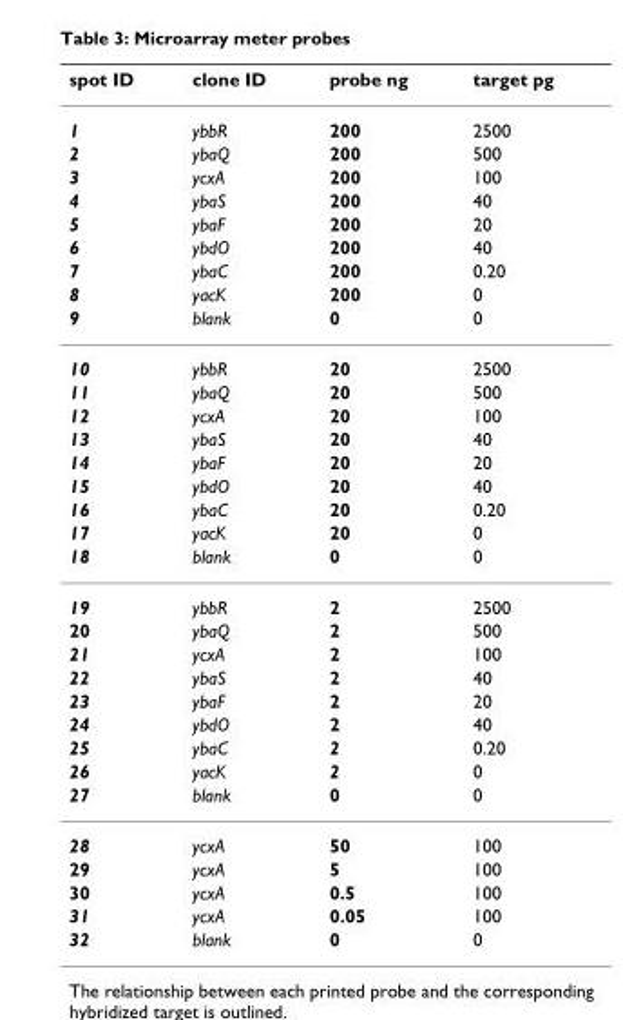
<table><thead><tr><td>spot ID</td><td>clone ID</td><td>probe ng</td><td>target pg</td></tr></thead><tbody><tr><td>1</td><td>ybbR</td><td>200</td><td>2500</td></tr><tr><td>2</td><td>ybaQ</td><td>200</td><td>500</td></tr><tr><td>3</td><td>ycxA</td><td>200</td><td>100</td></tr><tr><td>4</td><td>ybaS</td><td>200</td><td>40</td></tr><tr><td>5</td><td>ybaF</td><td>200</td><td>20</td></tr><tr><td>6</td><td>ybdO</td><td>200</td><td>40</td></tr><tr><td>7</td><td>ybaC</td><td>200</td><td>0.20</td></tr><tr><td>8</td><td>yacK</td><td>200</td><td>0</td></tr><tr><td>9</td><td>blank</td><td>0</td><td>0</td></tr><tr><td>10</td><td>ybbR</td><td>20</td><td>2500</td></tr><tr><td>11</td><td>ybaQ</td><td>20</td><td>500</td></tr><tr><td>12</td><td>ycxA</td><td>20</td><td>100</td></tr><tr><td>13</td><td>ybaS</td><td>20</td><td>40</td></tr><tr><td>14</td><td>ybaF</td><td>20</td><td>20</td></tr><tr><td>15</td><td>ybdO</td><td>20</td><td>40</td></tr><tr><td>16</td><td>ybaC</td><td>20</td><td>0.20</td></tr><tr><td>17</td><td>yacK</td><td>20</td><td>0</td></tr><tr><td>18</td><td>blank</td><td>0</td><td>0</td></tr><tr><td>19</td><td>ybbR</td><td>2</td><td>2500</td></tr><tr><td>20</td><td>ybaQ</td><td>2</td><td>500</td></tr><tr><td>21</td><td>ycxA</td><td>2</td><td>100</td></tr><tr><td>22</td><td>ybaS</td><td>2</td><td>40</td></tr><tr><td>23</td><td>ybaF</td><td>2</td><td>20</td></tr><tr><td>24</td><td>ybdO</td><td>2</td><td>40</td></tr><tr><td>25</td><td>ybaC</td><td>2</td><td>0.20</td></tr><tr><td>26</td><td>yacK</td><td>2</td><td>0</td></tr><tr><td>27</td><td>blank</td><td>0</td><td>0</td></tr><tr><td>28</td><td>ycxA</td><td>50</td><td>100</td></tr><tr><td>29</td><td>ycxA</td><td>5</td><td>100</td></tr><tr><td>30</td><td>ycxA</td><td>0.5</td><td>100</td></tr><tr><td>31</td><td>ycxA</td><td>0.05</td><td>100</td></tr><tr><td>32</td><td>blank</td><td>0</td><td>0</td></tr></tbody></table>